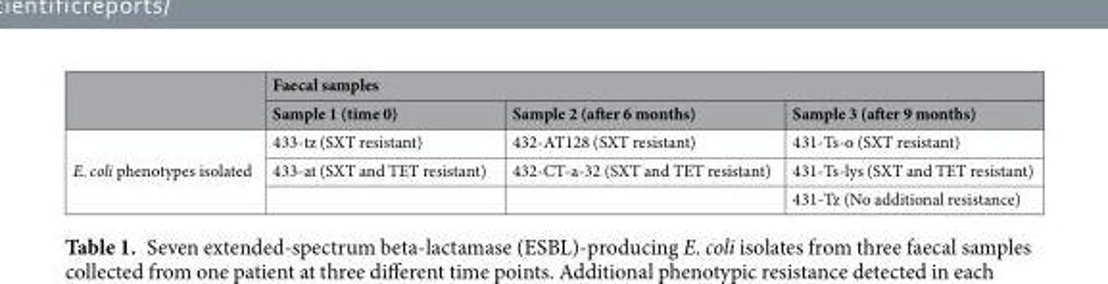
<table><thead><tr><td rowspan="2"></td><td colspan="3">Faecal samples</td></tr><tr><td>Sample 1 (time 0)</td><td>Sample 2 (after 6 months)</td><td>Sample 3 (after 9 months)</td></tr></thead><tbody><tr><td rowspan="3">E. coli phenotypes isolated</td><td>433-tz (SXT resistant)</td><td>432-AT128 (SXT resistant)</td><td>431-Ts-o (SXT resistant)</td></tr><tr><td>433-at (SXT and TET resistant)</td><td>432-CT-a-32 (SXT and TET resistant)</td><td>431-Ts-lys (SXT and TET resistant)</td></tr><tr><td></td><td></td><td>431-Tz (No additional resistance)</td></tr></tbody></table>